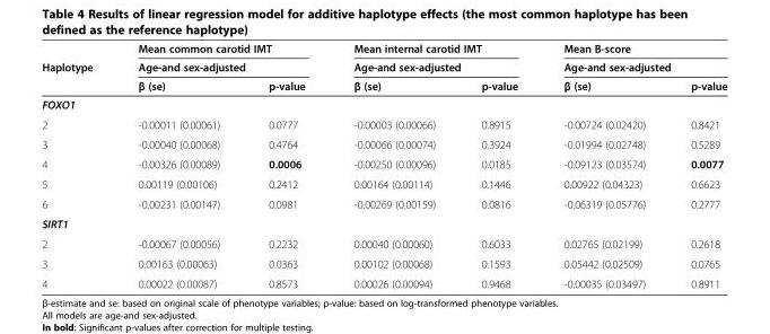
<table><thead><tr><td rowspan="3">Haplotype</td><td rowspan="2" colspan="2">Mean common carotid IMT Age-and sex-adjusted</td><td rowspan="2" colspan="2">Mean internal carotid IMT Age-and sex-adjusted</td><td rowspan="2" colspan="2">Mean B-score Age-and sex-adjusted</td></tr><tr></tr><tr><td>β (se)</td><td>p-value</td><td>β (se)</td><td>p-value</td><td>β (se)</td><td>p-value</td></tr></thead><tbody><tr><td colspan="7">FOXO1</td></tr><tr><td>2</td><td>-0.00011 (0.00061)</td><td>0.0777</td><td>-0.00003 (0.00066)</td><td>0.8915</td><td>-0.00724 (0.02420)</td><td>0.8421</td></tr><tr><td>3</td><td>-0.00040 (0.00068)</td><td>0.4764</td><td>-0.00066 (0.00074)</td><td>0.3924</td><td>-0.01994 (0.02748)</td><td>0.5289</td></tr><tr><td>4</td><td>-0.00326 (0.00089)</td><td>0.0006</td><td>-0.00250 (0.00096)</td><td>0.0185</td><td>-0.09123 (0.03574)</td><td>0.0077</td></tr><tr><td>5</td><td>0.00119 (0.00106)</td><td>0.2412</td><td>0.00164 (0.00114)</td><td>0.1446</td><td>0.00922 (0.04323)</td><td>0.6623</td></tr><tr><td>6</td><td>-0.00231 (0.00147)</td><td>0.0981</td><td>-0.00269 (0.00159)</td><td>0.0816</td><td>-0.06319 (0.05776)</td><td>0.2777</td></tr><tr><td colspan="7">SIRT1</td></tr><tr><td>2</td><td>-0.00067 (0.00056)</td><td>0.2232</td><td>0.00040 (0.00060)</td><td>0.6033</td><td>0.02765 (0.02199)</td><td>0.2618</td></tr><tr><td>3</td><td>0.00163 (0.00063)</td><td>0.0363</td><td>0.00102 (0.00068)</td><td>0.1593</td><td>0.05442 (0.02509)</td><td>0.0765</td></tr><tr><td>4</td><td>0.00022 (0.00087)</td><td>0.8573</td><td>0.00026 (0.00094)</td><td>0.9468</td><td>-0.00035 (0.03497)</td><td>0.8911</td></tr></tbody></table>